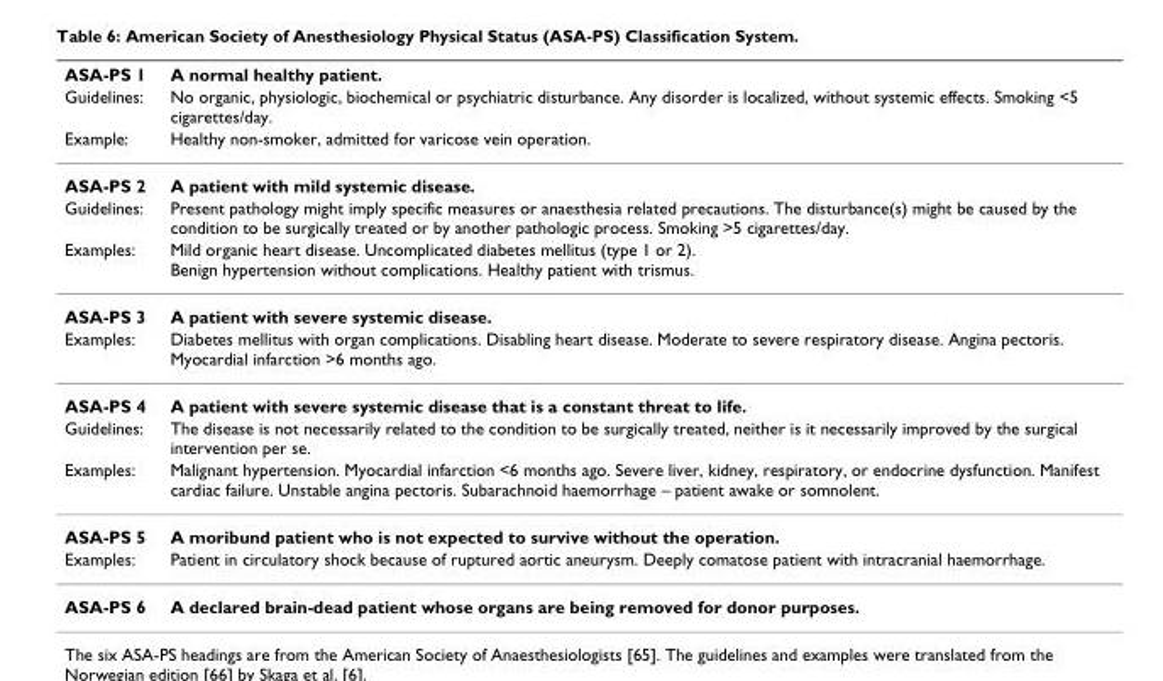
<table><thead><tr><td rowspan="3">ASA-PS 1 Guidelines: Example:</td><td rowspan="3">A normal healthy patient. No organic, physiologic, biochemical or psychiatric disturbance. Any disorder is localized, without systemic effects. Smoking &lt;5 cigarettes/day. Healthy non-smoker, admitted for varicose vein operation.</td></tr><tr></tr><tr></tr></thead><tbody><tr><td>ASA-PS 2</td><td>A patient with mild systemic disease.</td></tr><tr><td>Guidelines:</td><td>Present pathology might imply specific measures or anaesthesia related precautions. The disturbance(s) might be caused by the condition to be surgically treated or by another pathologic process. Smoking &gt;5 cigarettes/day.</td></tr><tr><td>Examples:</td><td>Mild organic heart disease. Uncomplicated diabetes mellitus (type 1 or 2). Benign hypertension without complications. Healthy patient with trismus.</td></tr><tr><td>ASA-PS 3</td><td>A patient with severe systemic disease.</td></tr><tr><td>Examples:</td><td>Diabetes mellitus with organ complications. Disabling heart disease. Moderate to severe respiratory disease. Angina pectoris. Myocardial infarction &gt;6 months ago.</td></tr><tr><td>ASA-PS 4</td><td>A patient with severe systemic disease that is a constant threat to life.</td></tr><tr><td>Guidelines:</td><td>The disease is not necessarily related to the condition to be surgically treated, neither is it necessarily improved by the surgical intervention per se.</td></tr><tr><td>Examples:</td><td>Malignant hypertension. Myocardial infarction &lt;6 months ago. Severe liver, kidney, respiratory, or endocrine dysfunction. Manifest cardiac failure. Unstable angina pectoris. Subarachnoid haemorrhage – patient awake or somnolent.</td></tr><tr><td>ASA-PS 5</td><td>A moribund patient who is not expected to survive without the operation.</td></tr><tr><td>Examples:</td><td>Patient in circulatory shock because of ruptured aortic aneurysm. Deeply comatose patient with intracranial haemorrhage.</td></tr><tr><td>ASA-PS 6</td><td>A declared brain-dead patient whose organs are being removed for donor purposes.</td></tr></tbody></table>